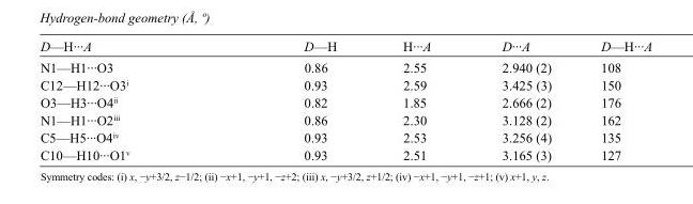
<table><tbody><tr><td>D—H···A</td><td>D—H</td><td>H···A</td><td>D···A</td><td>D—H···A</td></tr><tr><td>N1—H1···O3</td><td>0.86</td><td>2.55</td><td>2.940 (2)</td><td>108</td></tr><tr><td>C12—H12···O3<sup>i</sup></td><td>0.93</td><td>2.59</td><td>3.425 (3)</td><td>150</td></tr><tr><td>O3—H3···O4<sup>ii</sup></td><td>0.82</td><td>1.85</td><td>2.666 (2)</td><td>176</td></tr><tr><td>N1—H1···O2<sup>iii</sup></td><td>0.86</td><td>2.30</td><td>3.128 (2)</td><td>162</td></tr><tr><td>C5—H5···O4<sup>iv</sup></td><td>0.93</td><td>2.53</td><td>3.256 (4)</td><td>135</td></tr><tr><td>C10—H10···O1<sup>v</sup></td><td>0.93</td><td>2.51</td><td>3.165 (3)</td><td>127</td></tr></tbody></table>